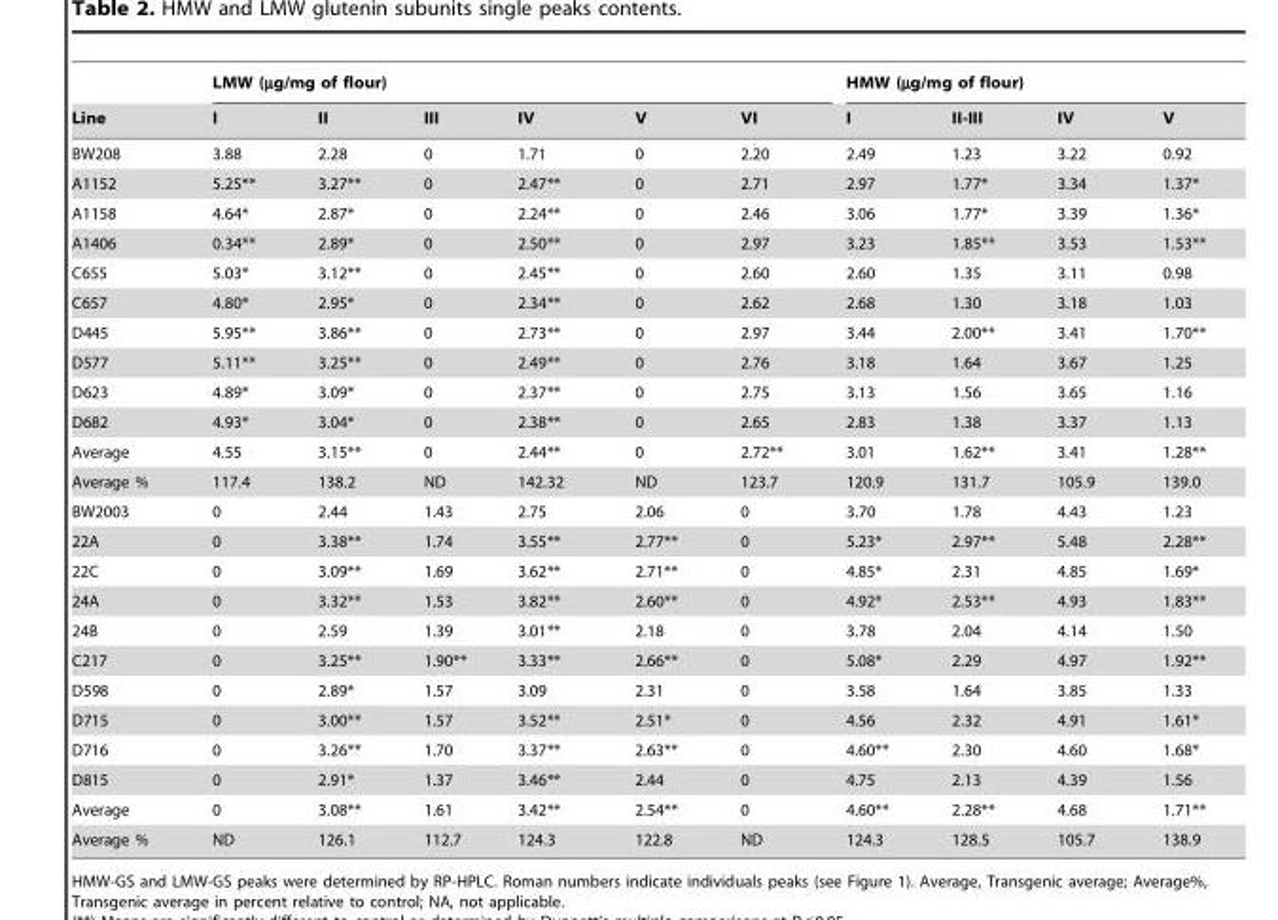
<table><thead><tr><td rowspan="2">Line</td><td colspan="6">LMW (µg/mg of flour)</td><td colspan="4">HMW (µg/mg of flour)</td></tr><tr><td>I</td><td>II</td><td>III</td><td>IV</td><td>V</td><td>VI</td><td>I</td><td>II-III</td><td>IV</td><td>V</td></tr></thead><tbody><tr><td>BW208</td><td>3.88</td><td>2.28</td><td>0</td><td>1.71</td><td>0</td><td>2.20</td><td>2.49</td><td>1.23</td><td>3.22</td><td>0.92</td></tr><tr><td>A1152</td><td>5.25**</td><td>3.27**</td><td>0</td><td>2.47**</td><td>0</td><td>2.71</td><td>2.97</td><td>1.77*</td><td>3.34</td><td>1.37*</td></tr><tr><td>A1158</td><td>4.64*</td><td>2.87*</td><td>0</td><td>2.24**</td><td>0</td><td>2.46</td><td>3.06</td><td>1.77*</td><td>3.39</td><td>1.36*</td></tr><tr><td>A1406</td><td>0.34**</td><td>2.89*</td><td>0</td><td>2.50**</td><td>0</td><td>2.97</td><td>3.23</td><td>1.85**</td><td>3.53</td><td>1.53**</td></tr><tr><td>C655</td><td>5.03*</td><td>3.12**</td><td>0</td><td>2.45**</td><td>0</td><td>2.60</td><td>2.60</td><td>1.35</td><td>3.11</td><td>0.98</td></tr><tr><td>C657</td><td>4.80*</td><td>2.95*</td><td>0</td><td>2.34**</td><td>0</td><td>2.62</td><td>2.68</td><td>1.30</td><td>3.18</td><td>1.03</td></tr><tr><td>D445</td><td>5.95**</td><td>3.86**</td><td>0</td><td>2.73**</td><td>0</td><td>2.97</td><td>3.44</td><td>2.00**</td><td>3.41</td><td>1.70**</td></tr><tr><td>D577</td><td>5.11**</td><td>3.25**</td><td>0</td><td>2.49**</td><td>0</td><td>2.76</td><td>3.18</td><td>1.64</td><td>3.67</td><td>1.25</td></tr><tr><td>D623</td><td>4.89*</td><td>3.09*</td><td>0</td><td>2.37**</td><td>0</td><td>2.75</td><td>3.13</td><td>1.56</td><td>3.65</td><td>1.16</td></tr><tr><td>D682</td><td>4.93*</td><td>3.04*</td><td>0</td><td>2.38**</td><td>0</td><td>2.65</td><td>2.83</td><td>1.38</td><td>3.37</td><td>1.13</td></tr><tr><td>Average</td><td>4.55</td><td>3.15**</td><td>0</td><td>2.44**</td><td>0</td><td>2.72**</td><td>3.01</td><td>1.62**</td><td>3.41</td><td>1.28**</td></tr><tr><td>Average %</td><td>117.4</td><td>138.2</td><td>ND</td><td>142.32</td><td>ND</td><td>123.7</td><td>120.9</td><td>131.7</td><td>105.9</td><td>139.0</td></tr><tr><td>BW2003</td><td>0</td><td>2.44</td><td>1.43</td><td>2.75</td><td>2.06</td><td>0</td><td>3.70</td><td>1.78</td><td>4.43</td><td>1.23</td></tr><tr><td>22A</td><td>0</td><td>3.38**</td><td>1.74</td><td>3.55**</td><td>2.77**</td><td>0</td><td>5.23*</td><td>2.97**</td><td>5.48</td><td>2.28**</td></tr><tr><td>22C</td><td>0</td><td>3.09**</td><td>1.69</td><td>3.62**</td><td>2.71**</td><td>0</td><td>4.85*</td><td>2.31</td><td>4.85</td><td>1.69*</td></tr><tr><td>24A</td><td>0</td><td>3.32**</td><td>1.53</td><td>3.82**</td><td>2.60**</td><td>0</td><td>4.92*</td><td>2.53**</td><td>4.93</td><td>1.83**</td></tr><tr><td>24B</td><td>0</td><td>2.59</td><td>1.39</td><td>3.01**</td><td>2.18</td><td>0</td><td>3.78</td><td>2.04</td><td>4.14</td><td>1.50</td></tr><tr><td>C217</td><td>0</td><td>3.25**</td><td>1.90**</td><td>3.33**</td><td>2.66**</td><td>0</td><td>5.08*</td><td>2.29</td><td>4.97</td><td>1.92**</td></tr><tr><td>D598</td><td>0</td><td>2.89*</td><td>1.57</td><td>3.09</td><td>2.31</td><td>0</td><td>3.58</td><td>1.64</td><td>3.85</td><td>1.33</td></tr><tr><td>D715</td><td>0</td><td>3.00**</td><td>1.57</td><td>3.52**</td><td>2.51*</td><td>0</td><td>4.56</td><td>2.32</td><td>4.91</td><td>1.61*</td></tr><tr><td>D716</td><td>0</td><td>3.26**</td><td>1.70</td><td>3.37**</td><td>2.63**</td><td>0</td><td>4.60**</td><td>2.30</td><td>4.60</td><td>1.68*</td></tr><tr><td>D815</td><td>0</td><td>2.91*</td><td>1.37</td><td>3.46**</td><td>2.44</td><td>0</td><td>4.75</td><td>2.13</td><td>4.39</td><td>1.56</td></tr><tr><td>Average</td><td>0</td><td>3.08**</td><td>1.61</td><td>3.42**</td><td>2.54**</td><td>0</td><td>4.60**</td><td>2.28**</td><td>4.68</td><td>1.71**</td></tr><tr><td>Average %</td><td>ND</td><td>126.1</td><td>112.7</td><td>124.3</td><td>122.8</td><td>ND</td><td>124.3</td><td>128.5</td><td>105.7</td><td>138.9</td></tr></tbody></table>